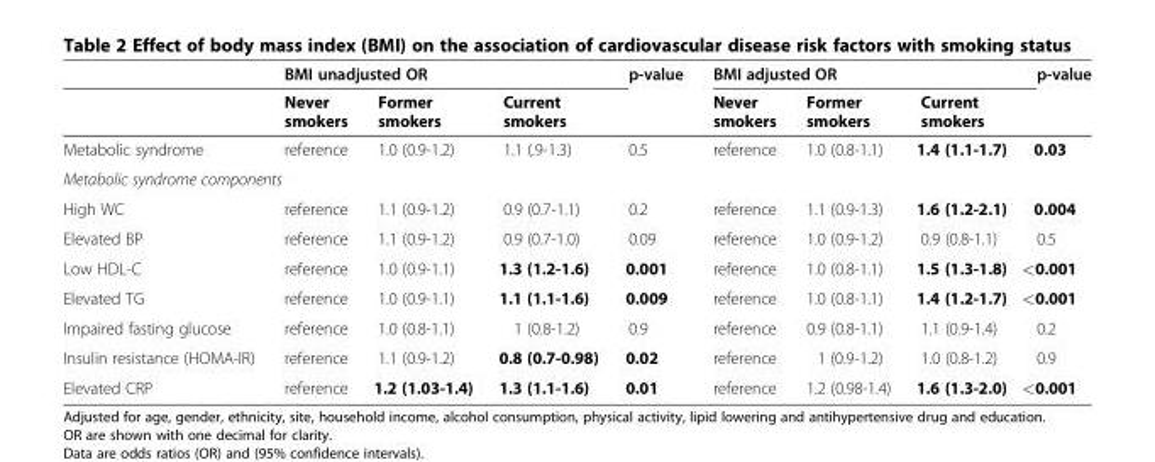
<table><thead><tr><td rowspan="2"></td><td colspan="3">BMI unadjusted OR</td><td rowspan="2">p-value</td><td colspan="3">BMI adjusted OR</td><td rowspan="2">p-value</td></tr><tr><td>Never smokers</td><td>Former smokers</td><td>Current smokers</td><td>Never smokers</td><td>Former smokers</td><td>Current smokers</td></tr></thead><tbody><tr><td>Metabolic syndrome</td><td>reference</td><td>1.0 (0.9-1.2)</td><td>1.1 (.9-1.3)</td><td>0.5</td><td>reference</td><td>1.0 (0.8-1.1)</td><td>1.4 (1.1-1.7)</td><td>0.03</td></tr><tr><td colspan="9">Metabolic syndrome components</td></tr><tr><td>High WC</td><td>reference</td><td>1.1 (0.9-1.2)</td><td>0.9 (0.7-1.1)</td><td>0.2</td><td>reference</td><td>1.1 (0.9-1.3)</td><td>1.6 (1.2-2.1)</td><td>0.004</td></tr><tr><td>Elevated BP</td><td>reference</td><td>1.1 (0.9-1.2)</td><td>0.9 (0.7-1.0)</td><td>0.09</td><td>reference</td><td>1.0 (0.9-1.2)</td><td>0.9 (0.8-1.1)</td><td>0.5</td></tr><tr><td>Low HDL-C</td><td>reference</td><td>1.0 (0.9-1.1)</td><td>1.3 (1.2-1.6)</td><td>0.001</td><td>reference</td><td>1.0 (0.8-1.1)</td><td>1.5 (1.3-1.8)</td><td>&lt;0.001</td></tr><tr><td>Elevated TG</td><td>reference</td><td>1.0 (0.9-1.1)</td><td>1.1 (1.1-1.6)</td><td>0.009</td><td>reference</td><td>1.0 (0.8-1.1)</td><td>1.4 (1.2-1.7)</td><td>&lt;0.001</td></tr><tr><td>Impaired fasting glucose</td><td>reference</td><td>1.0 (0.8-1.1)</td><td>1 (0.8-1.2)</td><td>0.9</td><td>reference</td><td>0.9 (0.8-1.1)</td><td>1.1 (0.9-1.4)</td><td>0.2</td></tr><tr><td>Insulin resistance (HOMA-IR)</td><td>reference</td><td>1.1 (0.9-1.2)</td><td>0.8 (0.7-0.98)</td><td>0.02</td><td>reference</td><td>1 (0.9-1.2)</td><td>1.0 (0.8-1.2)</td><td>0.9</td></tr><tr><td>Elevated CRP</td><td>reference</td><td>1.2 (1.03-1.4)</td><td>1.3 (1.1-1.6)</td><td>0.01</td><td>reference</td><td>1.2 (0.98-1.4)</td><td>1.6 (1.3-2.0)</td><td>&lt;0.001</td></tr></tbody></table>